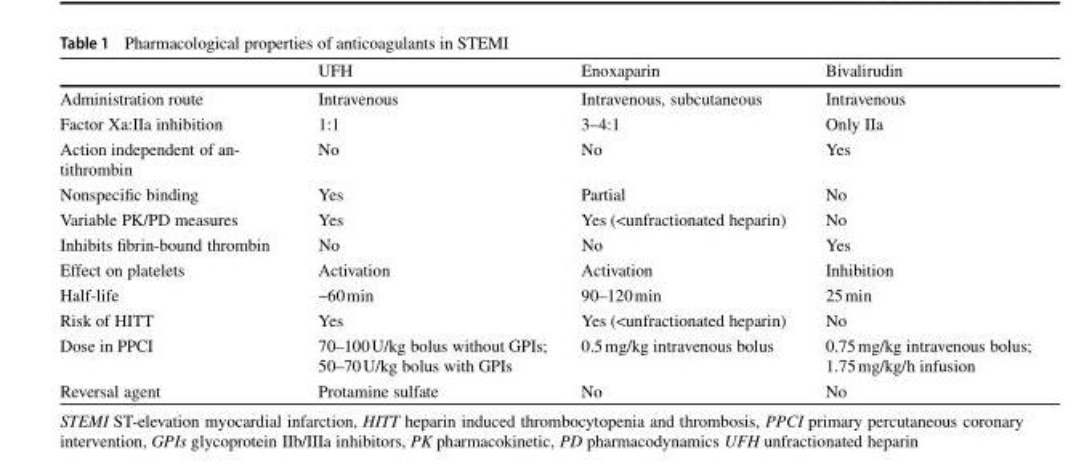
<table><thead><tr><td></td><td>UFH</td><td>Enoxaparin</td><td>Bivalirudin</td></tr></thead><tbody><tr><td>Administration route</td><td>Intravenous</td><td>Intravenous, subcutaneous</td><td>Intravenous</td></tr><tr><td>Factor Xa:IIa inhibition</td><td>1:1</td><td>3–4:1</td><td>Only IIa</td></tr><tr><td>Action independent of an- tithrombin</td><td>No</td><td>No</td><td>Yes</td></tr><tr><td>Nonspecific binding</td><td>Yes</td><td>Partial</td><td>No</td></tr><tr><td>Variable PK/PD measures</td><td>Yes</td><td>Yes (&lt;unfractionated heparin)</td><td>No</td></tr><tr><td>Inhibits fibrin-bound thrombin</td><td>No</td><td>No</td><td>Yes</td></tr><tr><td>Effect on platelets</td><td>Activation</td><td>Activation</td><td>Inhibition</td></tr><tr><td>Half-life</td><td>~60min</td><td>90–120min</td><td>25min</td></tr><tr><td>Risk of HITT</td><td>Yes</td><td>Yes (&lt;unfractionated heparin)</td><td>No</td></tr><tr><td>Dose in PPCI</td><td>70–100U/kg bolus without GPIs; 50–70U/kg bolus with GPIs</td><td>0.5mg/kg intravenous bolus</td><td>0.75mg/kg intravenous bolus; 1.75mg/kg/h infusion</td></tr><tr><td>Reversal agent</td><td>Protamine sulfate</td><td>No</td><td>No</td></tr></tbody></table>